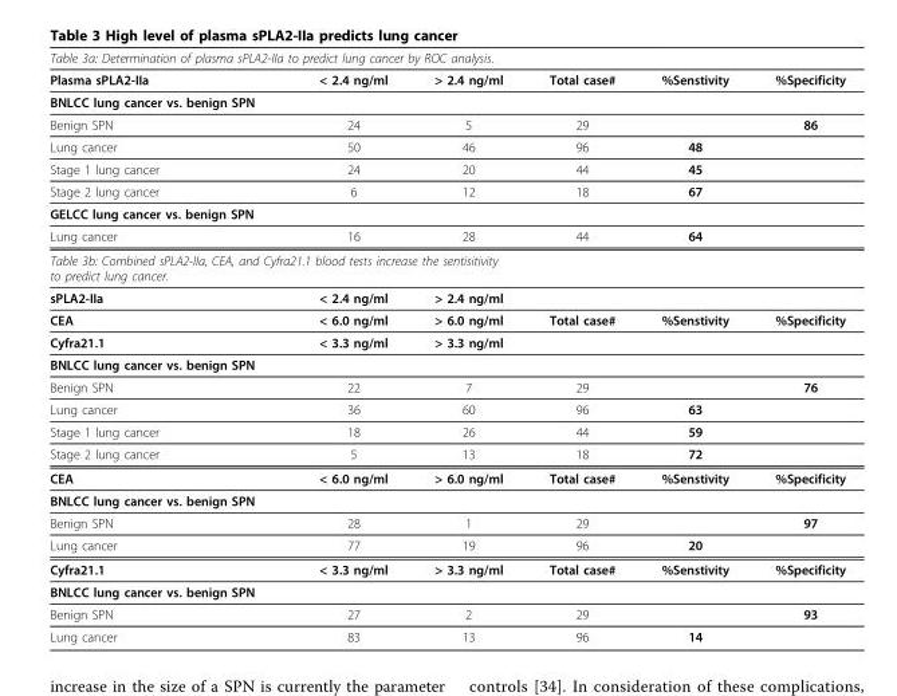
<table><thead><tr><td colspan="5">Table 3a: Determination of plasma sPLA2-IIa to predict lung cancer by ROC analysis.</td><td rowspan="2">%Specificity</td></tr><tr><td>Plasma sPLA2-IIa</td><td>&lt; 2.4 ng/ml</td><td>&gt; 2.4 ng/ml</td><td>Total case#</td><td>%Senstivity</td></tr></thead><tbody><tr><td colspan="6">BNLCC lung cancer vs. benign SPN</td></tr><tr><td>Benign SPN</td><td>24</td><td>5</td><td>29</td><td></td><td>86</td></tr><tr><td>Lung cancer</td><td>50</td><td>46</td><td>96</td><td>48</td><td></td></tr><tr><td>Stage 1 lung cancer</td><td>24</td><td>20</td><td>44</td><td>45</td><td></td></tr><tr><td>Stage 2 lung cancer</td><td>6</td><td>12</td><td>18</td><td>67</td><td></td></tr><tr><td colspan="6">GELCC lung cancer vs. benign SPN</td></tr><tr><td>Lung cancer</td><td>16</td><td>28</td><td>44</td><td>64</td><td></td></tr><tr><td colspan="6">Table 3b: Combined sPLA2-IIa, CEA, and Cyfra21.1 blood tests increase the sentisitivity to predict lung cancer.</td></tr><tr><td>sPLA2-IIa</td><td>&lt; 2.4 ng/ml</td><td>&gt; 2.4 ng/ml</td><td></td><td></td><td></td></tr><tr><td>CEA</td><td>&lt; 6.0 ng/ml</td><td>&gt; 6.0 ng/ml</td><td>Total case#</td><td>%Senstivity</td><td>%Specificity</td></tr><tr><td>Cyfra21.1</td><td>&lt; 3.3 ng/ml</td><td>&gt; 3.3 ng/ml</td><td></td><td></td><td></td></tr><tr><td colspan="6">BNLCC lung cancer vs. benign SPN</td></tr><tr><td>Benign SPN</td><td>22</td><td>7</td><td>29</td><td></td><td>76</td></tr><tr><td>Lung cancer</td><td>36</td><td>60</td><td>96</td><td>63</td><td></td></tr><tr><td>Stage 1 lung cancer</td><td>18</td><td>26</td><td>44</td><td>59</td><td></td></tr><tr><td>Stage 2 lung cancer</td><td>5</td><td>13</td><td>18</td><td>72</td><td></td></tr><tr><td>CEA</td><td>&lt; 6.0 ng/ml</td><td>&gt; 6.0 ng/ml</td><td>Total case#</td><td>%Senstivity</td><td>%Specificity</td></tr><tr><td colspan="6">BNLCC lung cancer vs. benign SPN</td></tr><tr><td>Benign SPN</td><td>28</td><td>1</td><td>29</td><td></td><td>97</td></tr><tr><td>Lung cancer</td><td>77</td><td>19</td><td>96</td><td>20</td><td></td></tr><tr><td>Cyfra21.1</td><td>&lt; 3.3 ng/ml</td><td>&gt; 3.3 ng/ml</td><td>Total case#</td><td>%Senstivity</td><td>%Specificity</td></tr><tr><td colspan="6">BNLCC lung cancer vs. benign SPN</td></tr><tr><td>Benign SPN</td><td>27</td><td>2</td><td>29</td><td></td><td>93</td></tr><tr><td>Lung cancer</td><td>83</td><td>13</td><td>96</td><td>14</td><td></td></tr></tbody></table>